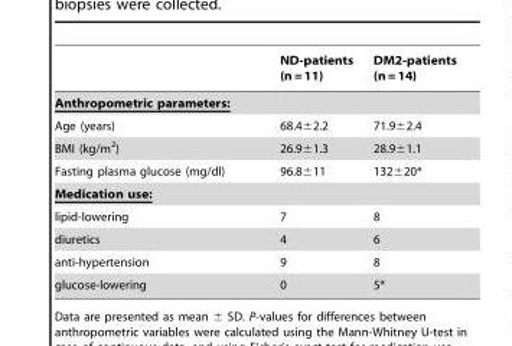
<table><thead><tr><td></td><td>ND-patients (n = 11)</td><td>DM2-patients (n = 14)</td></tr></thead><tbody><tr><td colspan="3">Anthropometric parameters:</td></tr><tr><td>Age (years)</td><td>68.4±2.2</td><td>71.9±2.4</td></tr><tr><td>BMI (kg/m<sup>2</sup>)</td><td>26.9±1.3</td><td>28.9±1.1</td></tr><tr><td>Fasting plasma glucose (mg/dl)</td><td>96.8±11</td><td>132±20*</td></tr><tr><td colspan="3">Medication use:</td></tr><tr><td>lipid-lowering</td><td>7</td><td>8</td></tr><tr><td>diuretics</td><td>4</td><td>6</td></tr><tr><td>anti-hypertension</td><td>9</td><td>8</td></tr><tr><td>glucose-lowering</td><td>0</td><td>5*</td></tr></tbody></table>